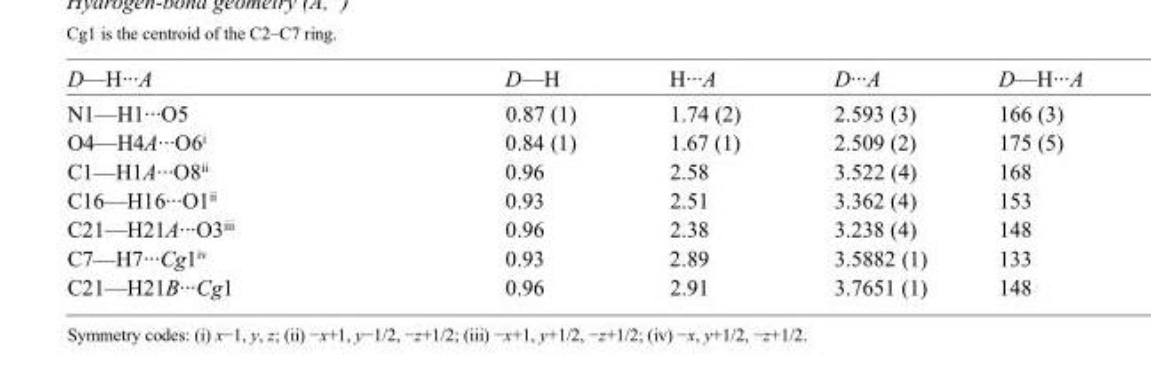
<table><tbody><tr><td>D—H···A</td><td>D—H</td><td>H···A</td><td>D···A</td><td>D—H···A</td></tr><tr><td>N1—H1···O5</td><td>0.87 (1)</td><td>1.74 (2)</td><td>2.593 (3)</td><td>166 (3)</td></tr><tr><td>O4—H4A···O6<sup>i</sup></td><td>0.84 (1)</td><td>1.67 (1)</td><td>2.509 (2)</td><td>175 (5)</td></tr><tr><td>C1—H1A···O8<sup>ii</sup></td><td>0.96</td><td>2.58</td><td>3.522 (4)</td><td>168</td></tr><tr><td>C16—H16···O1<sup>ii</sup></td><td>0.93</td><td>2.51</td><td>3.362 (4)</td><td>153</td></tr><tr><td>C21—H21A···O3<sup>iii</sup></td><td>0.96</td><td>2.38</td><td>3.238 (4)</td><td>148</td></tr><tr><td>C7—H7···Cg1<sup>iv</sup></td><td>0.93</td><td>2.89</td><td>3.5882 (1)</td><td>133</td></tr><tr><td>C21—H21B···Cg1</td><td>0.96</td><td>2.91</td><td>3.7651 (1)</td><td>148</td></tr></tbody></table>